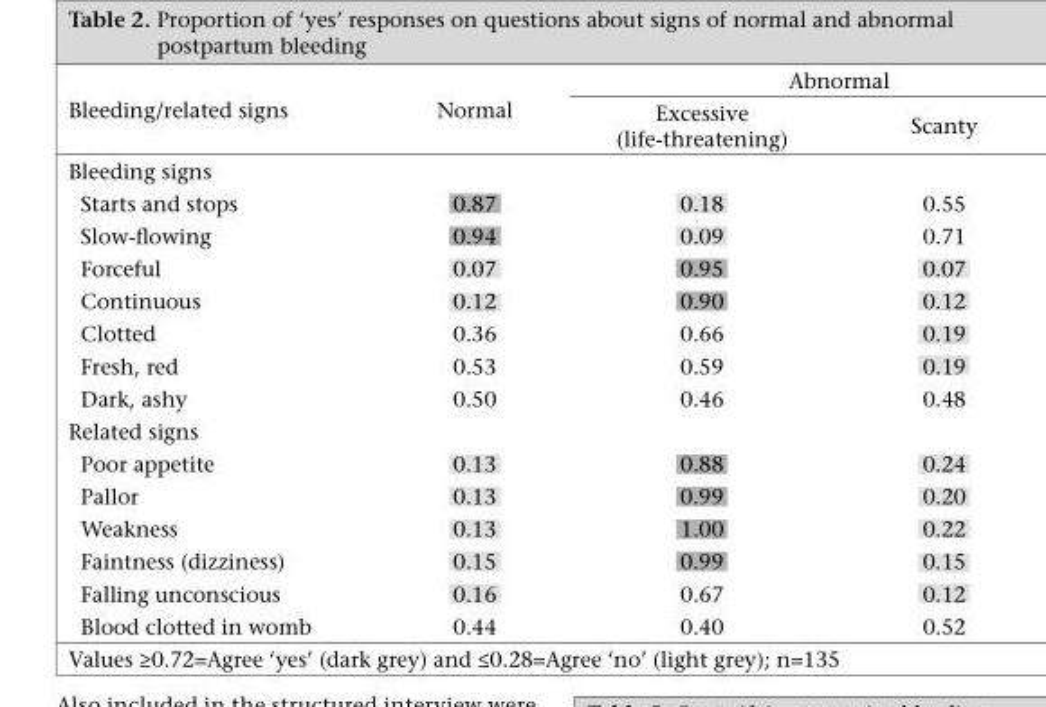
<table><thead><tr><td rowspan="2">Bleeding/related signs</td><td rowspan="2">Normal</td><td colspan="2">Abnormal</td></tr><tr><td>Excessive (life-threatening)</td><td>Scanty</td></tr></thead><tbody><tr><td colspan="4">Bleeding signs</td></tr><tr><td>Starts and stops</td><td>0.87</td><td>0.18</td><td>0.55</td></tr><tr><td>Slow-flowing</td><td>0.94</td><td>0.09</td><td>0.71</td></tr><tr><td>Forceful</td><td>0.07</td><td>0.95</td><td>0.07</td></tr><tr><td>Continuous</td><td>0.12</td><td>0.90</td><td>0.12</td></tr><tr><td>Clotted</td><td>0.36</td><td>0.66</td><td>0.19</td></tr><tr><td>Fresh, red</td><td>0.53</td><td>0.59</td><td>0.19</td></tr><tr><td>Dark, ashy</td><td>0.50</td><td>0.46</td><td>0.48</td></tr><tr><td colspan="4">Related signs</td></tr><tr><td>Poor appetite</td><td>0.13</td><td>0.88</td><td>0.24</td></tr><tr><td>Pallor</td><td>0.13</td><td>0.99</td><td>0.20</td></tr><tr><td>Weakness</td><td>0.13</td><td>1.00</td><td>0.22</td></tr><tr><td>Faintness (dizziness)</td><td>0.15</td><td>0.99</td><td>0.15</td></tr><tr><td>Falling unconscious</td><td>0.16</td><td>0.67</td><td>0.12</td></tr><tr><td>Blood clotted in womb</td><td>0.44</td><td>0.40</td><td>0.52</td></tr></tbody></table>